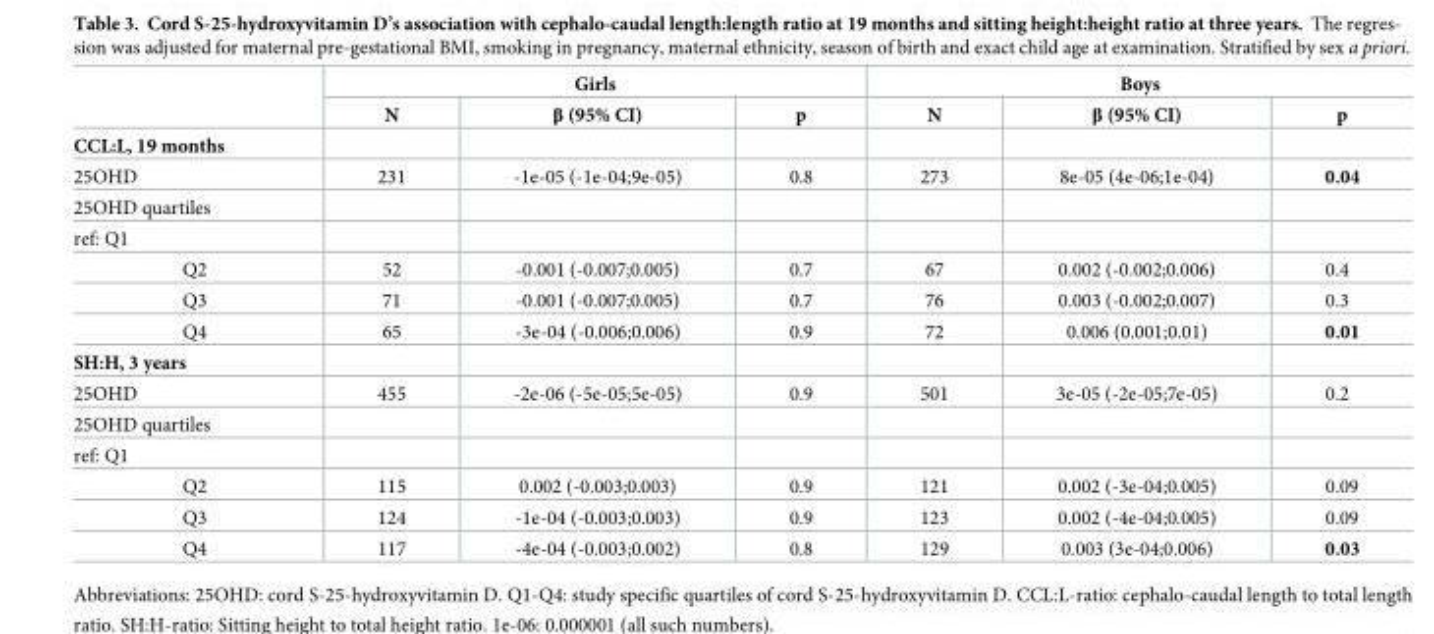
<table><thead><tr><td rowspan="2"></td><td colspan="3">Girls</td><td colspan="3">Boys</td></tr><tr><td>N</td><td>β (95% CI)</td><td>p</td><td>N</td><td>β (95% CI)</td><td>p</td></tr></thead><tbody><tr><td colspan="7">CCL:L, 19 months</td></tr><tr><td>25OHD</td><td>231</td><td>-1e-05 (-1e-04;9e-05)</td><td>0.8</td><td>273</td><td>8e-05 (4e-06;1e-04)</td><td>0.04</td></tr><tr><td colspan="7">25OHD quartiles</td></tr><tr><td colspan="7">ref: Q1</td></tr><tr><td>Q2</td><td>52</td><td>-0.001 (-0.007;0.005)</td><td>0.7</td><td>67</td><td>0.002 (-0.002;0.006)</td><td>0.4</td></tr><tr><td>Q3</td><td>71</td><td>-0.001 (-0.007;0.005)</td><td>0.7</td><td>76</td><td>0.003 (-0.002;0.007)</td><td>0.3</td></tr><tr><td>Q4</td><td>65</td><td>-3e-04 (-0.006;0.006)</td><td>0.9</td><td>72</td><td>0.006 (0.001;0.01)</td><td>0.01</td></tr><tr><td colspan="7">SH:H, 3 years</td></tr><tr><td>25OHD</td><td>455</td><td>-2e-06 (-5e-05;5e-05)</td><td>0.9</td><td>501</td><td>3e-05 (-2e-05;7e-05)</td><td>0.2</td></tr><tr><td colspan="7">25OHD quartiles</td></tr><tr><td colspan="7">ref: Q1</td></tr><tr><td>Q2</td><td>115</td><td>0.002 (-0.003;0.003)</td><td>0.9</td><td>121</td><td>0.002 (-3e-04;0.005)</td><td>0.09</td></tr><tr><td>Q3</td><td>124</td><td>-1e-04 (-0.003;0.003)</td><td>0.9</td><td>123</td><td>0.002 (-4e-04;0.005)</td><td>0.09</td></tr><tr><td>Q4</td><td>117</td><td>-4e-04 (-0.003;0.002)</td><td>0.8</td><td>129</td><td>0.003 (3e-04;0.006)</td><td>0.03</td></tr></tbody></table>